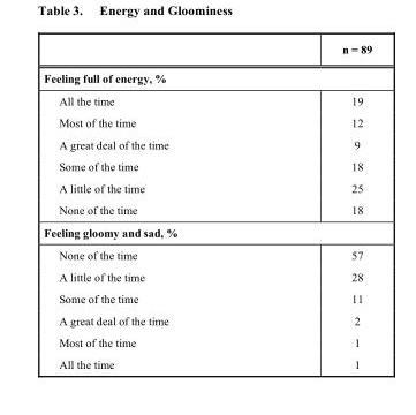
<table><thead><tr><td></td><td>n = 89</td></tr></thead><tbody><tr><td colspan="2">Feeling full of energy, %</td></tr><tr><td>All the time Most of the time A great deal of the time Some of the time A little of the time None of the time</td><td>19 12 9 18 25 18</td></tr><tr><td colspan="2">Feeling gloomy and sad, %</td></tr><tr><td>None of the time A little of the time Some of the time A great deal of the time Most of the time All the time</td><td>57 28 11 2 1 1</td></tr></tbody></table>